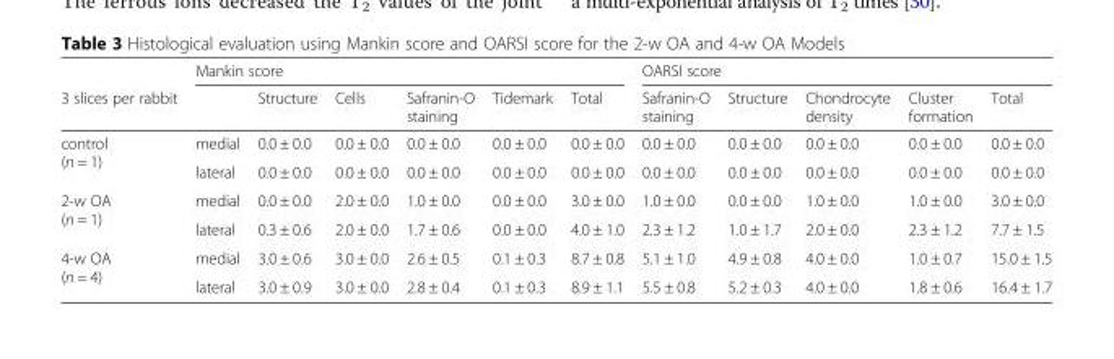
<table><thead><tr><td rowspan="2">3 slices per rabbit</td><td colspan="6">Mankin score</td><td colspan="5">OARSI score</td></tr><tr><td></td><td>Structure</td><td>Cells</td><td>Safranin-O staining</td><td>Tidemark</td><td>Total</td><td>Safranin-O staining</td><td>Structure</td><td>Chondrocyte density</td><td>Cluster formation</td><td>Total</td></tr></thead><tbody><tr><td rowspan="2">control (n = 1)</td><td>medial</td><td>0.0 ± 0.0</td><td>0.0 ± 0.0</td><td>0.0 ± 0.0</td><td>0.0 ± 0.0</td><td>0.0 ± 0.0</td><td>0.0 ± 0.0</td><td>0.0 ± 0.0</td><td>0.0 ± 0.0</td><td>0.0 ± 0.0</td><td>0.0 ± 0.0</td></tr><tr><td>lateral</td><td>0.0 ± 0.0</td><td>0.0 ± 0.0</td><td>0.0 ± 0.0</td><td>0.0 ± 0.0</td><td>0.0 ± 0.0</td><td>0.0 ± 0.0</td><td>0.0 ± 0.0</td><td>0.0 ± 0.0</td><td>0.0 ± 0.0</td><td>0.0 ± 0.0</td></tr><tr><td rowspan="2">2-w OA (n = 1)</td><td>medial</td><td>0.0 ± 0.0</td><td>2.0 ± 0.0</td><td>1.0 ± 0.0</td><td>0.0 ± 0.0</td><td>3.0 ± 0.0</td><td>1.0 ± 0.0</td><td>0.0 ± 0.0</td><td>1.0 ± 0.0</td><td>1.0 ± 0.0</td><td>3.0 ± 0.0</td></tr><tr><td>lateral</td><td>0.3 ± 0.6</td><td>2.0 ± 0.0</td><td>1.7 ± 0.6</td><td>0.0 ± 0.0</td><td>4.0 ± 1.0</td><td>2.3 ± 1.2</td><td>1.0 ± 1.7</td><td>2.0 ± 0.0</td><td>2.3 ± 1.2</td><td>7.7 ± 1.5</td></tr><tr><td rowspan="2">4-w OA (n = 4)</td><td>medial</td><td>3.0 ± 0.6</td><td>3.0 ± 0.0</td><td>2.6 ± 0.5</td><td>0.1 ± 0.3</td><td>8.7 ± 0.8</td><td>5.1 ± 1.0</td><td>4.9 ± 0.8</td><td>4.0 ± 0.0</td><td>1.0 ± 0.7</td><td>15.0 ± 1.5</td></tr><tr><td>lateral</td><td>3.0 ± 0.9</td><td>3.0 ± 0.0</td><td>2.8 ± 0.4</td><td>0.1 ± 0.3</td><td>8.9 ± 1.1</td><td>5.5 ± 0.8</td><td>5.2 ± 0.3</td><td>4.0 ± 0.0</td><td>1.8 ± 0.6</td><td>16.4 ± 1.7</td></tr></tbody></table>